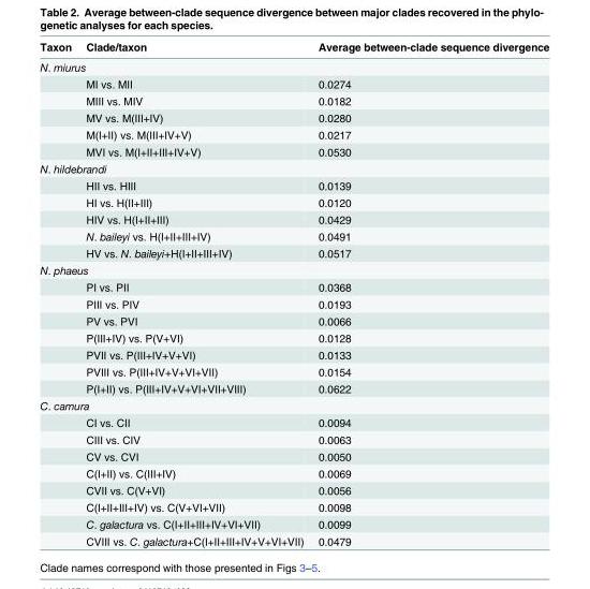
<table><thead><tr><td>Taxon</td><td>Clade/taxon</td><td>Average between-clade sequence divergence</td></tr></thead><tbody><tr><td colspan="3">N. miurus</td></tr><tr><td></td><td>MI vs. MII</td><td>0.0274</td></tr><tr><td></td><td>MIII vs. MIV</td><td>0.0182</td></tr><tr><td></td><td>MV vs. M(III+IV)</td><td>0.0280</td></tr><tr><td></td><td>M(I+II) vs. M(III+IV+V)</td><td>0.0217</td></tr><tr><td></td><td>MVI vs. M(I+II+III+IV+V)</td><td>0.0530</td></tr><tr><td colspan="3">N. hildebrandi</td></tr><tr><td></td><td>HII vs. HIII</td><td>0.0139</td></tr><tr><td></td><td>HI vs. H(II+III)</td><td>0.0120</td></tr><tr><td></td><td>HIV vs. H(I+II+III)</td><td>0.0429</td></tr><tr><td></td><td>N. baileyi vs. H(I+II+III+IV)</td><td>0.0491</td></tr><tr><td></td><td>HV vs. N. baileyi+H(I+II+III+IV)</td><td>0.0517</td></tr><tr><td colspan="3">N. phaeus</td></tr><tr><td></td><td>PI vs. PII</td><td>0.0368</td></tr><tr><td></td><td>PIII vs. PIV</td><td>0.0193</td></tr><tr><td></td><td>PV vs. PVI</td><td>0.0066</td></tr><tr><td></td><td>P(III+IV) vs. P(V+VI)</td><td>0.0128</td></tr><tr><td></td><td>PVII vs. P(III+IV+V+VI)</td><td>0.0133</td></tr><tr><td></td><td>PVIII vs. P(III+IV+V+VI+VII)</td><td>0.0154</td></tr><tr><td></td><td>P(I+II) vs. P(III+IV+V+VI+VII+VIII)</td><td>0.0622</td></tr><tr><td colspan="3">C. camura</td></tr><tr><td></td><td>CI vs. CII</td><td>0.0094</td></tr><tr><td></td><td>CIII vs. CIV</td><td>0.0063</td></tr><tr><td></td><td>CV vs. CVI</td><td>0.0050</td></tr><tr><td></td><td>C(I+II) vs. C(III+IV)</td><td>0.0069</td></tr><tr><td></td><td>CVII vs. C(V+VI)</td><td>0.0056</td></tr><tr><td></td><td>C(I+II+III+IV) vs. C(V+VI+VII)</td><td>0.0098</td></tr><tr><td></td><td>C. galactura vs. C(I+II+III+IV+VI+VII)</td><td>0.0099</td></tr><tr><td></td><td>CVIII vs. C. galactura+C(I+II+III+IV+V+VI+VII)</td><td>0.0479</td></tr></tbody></table>